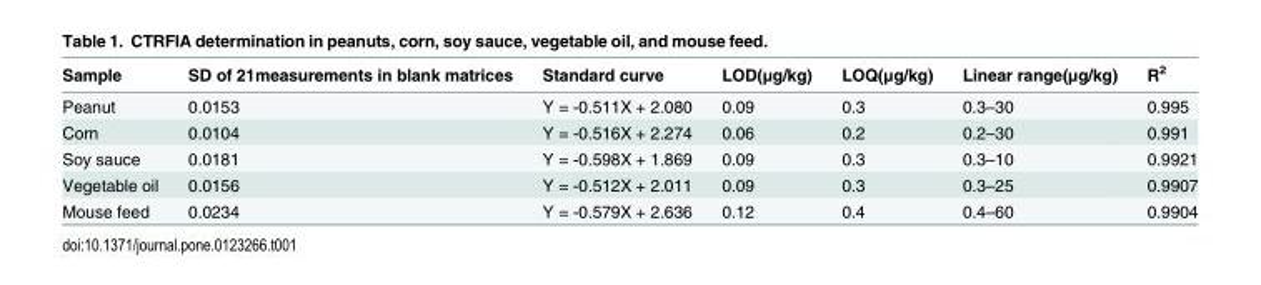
<table><thead><tr><td>Sample</td><td>SD of 21measurements in blank matrices</td><td>Standard curve</td><td>LOD(μg/kg)</td><td>LOQ(μg/kg)</td><td>Linear range(μg/kg)</td><td>R<sup>2</sup></td></tr></thead><tbody><tr><td>Peanut</td><td>0.0153</td><td>Y = -0.511X + 2.080</td><td>0.09</td><td>0.3</td><td>0.3–30</td><td>0.995</td></tr><tr><td>Corn</td><td>0.0104</td><td>Y = -0.516X + 2.274</td><td>0.06</td><td>0.2</td><td>0.2–30</td><td>0.991</td></tr><tr><td>Soy sauce</td><td>0.0181</td><td>Y = -0.598X + 1.869</td><td>0.09</td><td>0.3</td><td>0.3–10</td><td>0.9921</td></tr><tr><td>Vegetable oil</td><td>0.0156</td><td>Y = -0.512X + 2.011</td><td>0.09</td><td>0.3</td><td>0.3–25</td><td>0.9907</td></tr><tr><td>Mouse feed</td><td>0.0234</td><td>Y = -0.579X + 2.636</td><td>0.12</td><td>0.4</td><td>0.4–60</td><td>0.9904</td></tr></tbody></table>